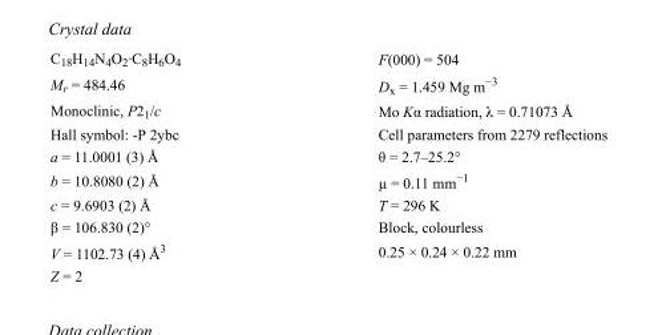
<table><tbody><tr><td>C<sub>18</sub>H<sub>14</sub>N<sub>4</sub>O<sub>2</sub>·C<sub>8</sub>H<sub>6</sub>O<sub>4</sub></td><td>F(000) = 504</td></tr><tr><td>M<sub>r</sub> = 484.46</td><td>D<sub>x</sub> = 1.459 Mg m<sup>−3</sup></td></tr><tr><td>Monoclinic, P2<sub>1</sub>/c</td><td>Mo Kα radiation, λ = 0.71073 Å</td></tr><tr><td>Hall symbol: -P 2ybc</td><td>Cell parameters from 2279 reflections</td></tr><tr><td>a = 11.0001 (3) Å</td><td>θ = 2.7–25.2°</td></tr><tr><td>b = 10.8080 (2) Å</td><td>µ = 0.11 mm<sup>−1</sup></td></tr><tr><td>c = 9.6903 (2) Å</td><td>T = 296 K</td></tr><tr><td>β = 106.830 (2)°</td><td>Block, colourless</td></tr><tr><td>V = 1102.73 (4) Å<sup>3</sup></td><td>0.25 × 0.24 × 0.22 mm</td></tr><tr><td>Z = 2</td><td></td></tr></tbody></table>